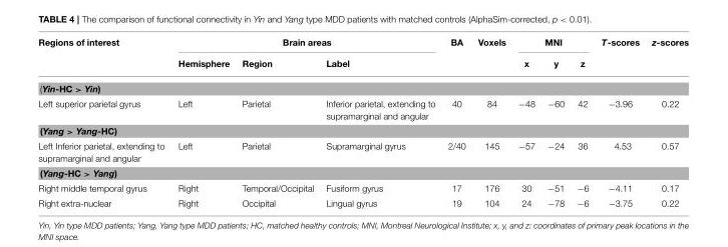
<table><thead><tr><td rowspan="2">Regions of interest</td><td colspan="3">Brain areas</td><td rowspan="2">BA</td><td rowspan="2">Voxels</td><td colspan="3">MNI</td><td rowspan="2">T-scores</td><td rowspan="2">z-scores</td></tr><tr><td>Hemisphere</td><td>Region</td><td>Label</td><td>x</td><td>y</td><td>z</td></tr></thead><tbody><tr><td colspan="11">(Yin-HC &gt; Yin)</td></tr><tr><td>Left superior parietal gyrus</td><td>Left</td><td>Parietal</td><td>Inferior parietal, extending to supramarginal and angular</td><td>40</td><td>84</td><td>−48</td><td>−60</td><td>42</td><td>−3.96</td><td>0.22</td></tr><tr><td colspan="11">(Yang &gt; Yang-HC)</td></tr><tr><td>Left Inferior parietal, extending to supramarginal and angular</td><td>Left</td><td>Parietal</td><td>Supramarginal gyrus</td><td>2/40</td><td>145</td><td>−57</td><td>−24</td><td>36</td><td>4.53</td><td>0.57</td></tr><tr><td colspan="11">(Yang-HC &gt; Yang)</td></tr><tr><td>Right middle temporal gyrus</td><td>Right</td><td>Temporal/Occipital</td><td>Fusiform gyrus</td><td>17</td><td>176</td><td>30</td><td>−51</td><td>−6</td><td>−4.11</td><td>0.17</td></tr><tr><td>Right extra-nuclear</td><td>Right</td><td>Occipital</td><td>Lingual gyrus</td><td>19</td><td>104</td><td>24</td><td>−78</td><td>−6</td><td>−3.75</td><td>0.22</td></tr></tbody></table>